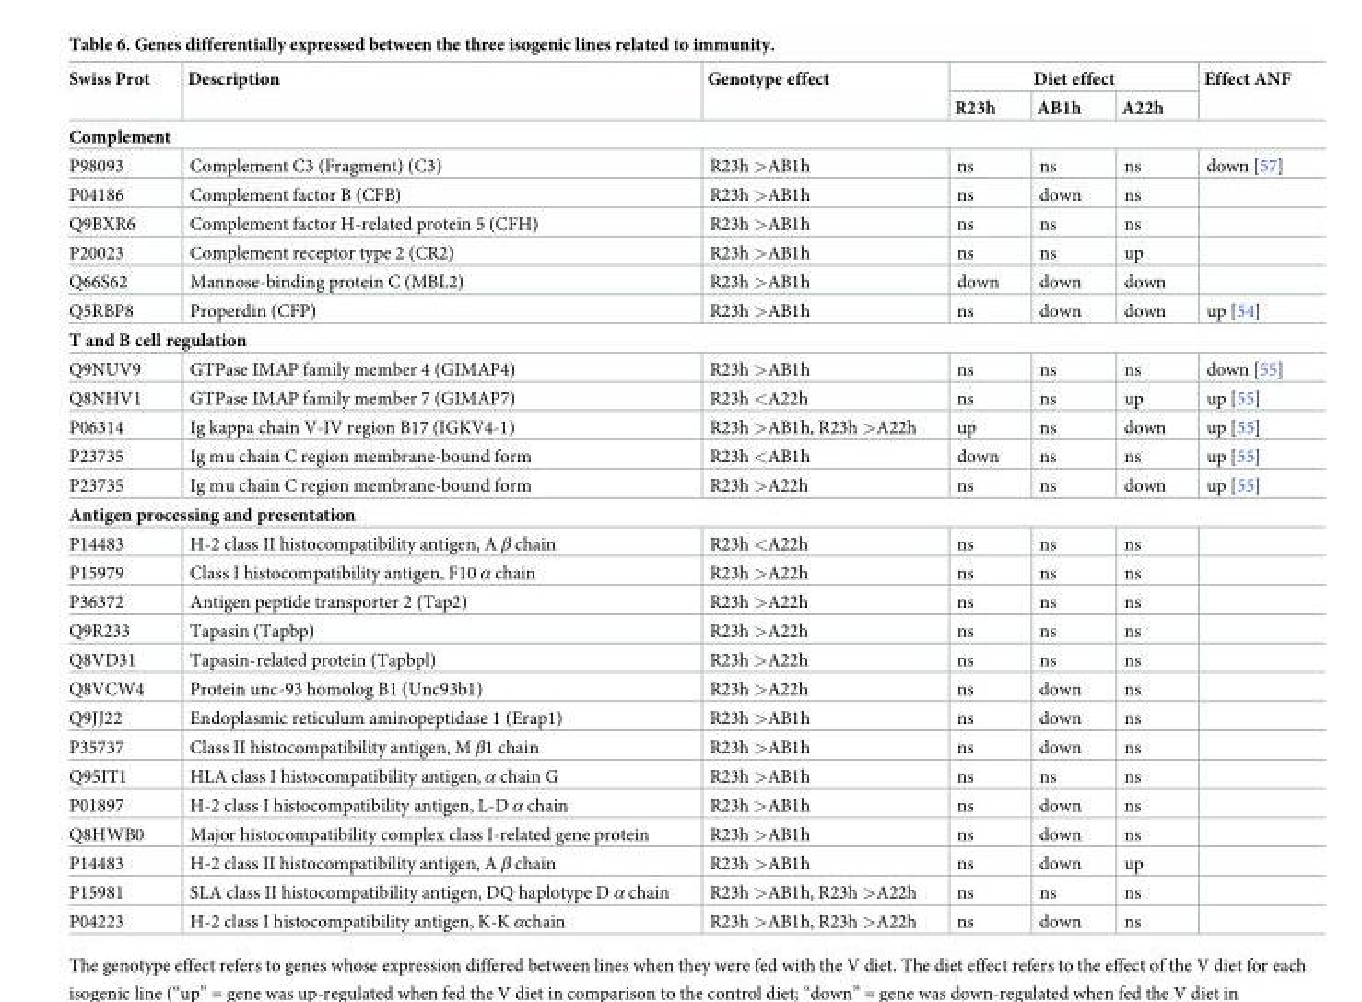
<table><thead><tr><td rowspan="2">Swiss Prot</td><td rowspan="2">Description</td><td rowspan="2">Genotype effect</td><td colspan="3">Diet effect</td><td rowspan="2">Effect ANF</td></tr><tr><td>R23h</td><td>AB1h</td><td>A22h</td></tr></thead><tbody><tr><td colspan="7">Complement</td></tr><tr><td>P98093</td><td>Complement C3 (Fragment) (C3)</td><td>R23h &gt;AB1h</td><td>ns</td><td>ns</td><td>ns</td><td>down [57]</td></tr><tr><td>P04186</td><td>Complement factor B (CFB)</td><td>R23h &gt;AB1h</td><td>ns</td><td>down</td><td>ns</td><td></td></tr><tr><td>Q9BXR6</td><td>Complement factor H-related protein 5 (CFH)</td><td>R23h &gt;AB1h</td><td>ns</td><td>ns</td><td>ns</td><td></td></tr><tr><td>P20023</td><td>Complement receptor type 2 (CR2)</td><td>R23h &gt;AB1h</td><td>ns</td><td>ns</td><td>up</td><td></td></tr><tr><td>Q66S62</td><td>Mannose-binding protein C (MBL2)</td><td>R23h &gt;AB1h</td><td>down</td><td>down</td><td>down</td><td></td></tr><tr><td>Q5RBP8</td><td>Properdin (CFP)</td><td>R23h &gt;AB1h</td><td>ns</td><td>down</td><td>down</td><td>up [54]</td></tr><tr><td colspan="7">T and B cell regulation</td></tr><tr><td>Q9NUV9</td><td>GTPase IMAP family member 4 (GIMAP4)</td><td>R23h &gt;AB1h</td><td>ns</td><td>ns</td><td>ns</td><td>down [55]</td></tr><tr><td>Q8NHV1</td><td>GTPase IMAP family member 7 (GIMAP7)</td><td>R23h &lt;A22h</td><td>ns</td><td>ns</td><td>up</td><td>up [55]</td></tr><tr><td>P06314</td><td>Ig kappa chain V-IV region B17 (IGKV4-1)</td><td>R23h &gt;AB1h, R23h &gt;A22h</td><td>up</td><td>ns</td><td>down</td><td>up [55]</td></tr><tr><td>P23735</td><td>Ig mu chain C region membrane-bound form</td><td>R23h &lt;AB1h</td><td>down</td><td>ns</td><td>ns</td><td>up [55]</td></tr><tr><td>P23735</td><td>Ig mu chain C region membrane-bound form</td><td>R23h &gt;A22h</td><td>ns</td><td>ns</td><td>down</td><td>up [55]</td></tr><tr><td colspan="7">Antigen processing and presentation</td></tr><tr><td>P14483</td><td>H-2 class II histocompatibility antigen, A β chain</td><td>R23h &lt;A22h</td><td>ns</td><td>ns</td><td>ns</td><td></td></tr><tr><td>P15979</td><td>Class I histocompatibility antigen, F10 α chain</td><td>R23h &gt;A22h</td><td>ns</td><td>ns</td><td>ns</td><td></td></tr><tr><td>P36372</td><td>Antigen peptide transporter 2 (Tap2)</td><td>R23h &gt;A22h</td><td>ns</td><td>ns</td><td>ns</td><td></td></tr><tr><td>Q9R233</td><td>Tapasin (Tapbp)</td><td>R23h &gt;A22h</td><td>ns</td><td>ns</td><td>ns</td><td></td></tr><tr><td>Q8VD31</td><td>Tapasin-related protein (Tapbpl)</td><td>R23h &gt;A22h</td><td>ns</td><td>ns</td><td>ns</td><td></td></tr><tr><td>Q8VCW4</td><td>Protein unc-93 homolog B1 (Unc93b1)</td><td>R23h &gt;A22h</td><td>ns</td><td>down</td><td>ns</td><td></td></tr><tr><td>Q9JJ22</td><td>Endoplasmic reticulum aminopeptidase 1 (Erap1)</td><td>R23h &gt;AB1h</td><td>ns</td><td>down</td><td>ns</td><td></td></tr><tr><td>P35737</td><td>Class II histocompatibility antigen, M β1 chain</td><td>R23h &gt;AB1h</td><td>ns</td><td>down</td><td>ns</td><td></td></tr><tr><td>Q95IT1</td><td>HLA class I histocompatibility antigen, α chain G</td><td>R23h &gt;AB1h</td><td>ns</td><td>ns</td><td>ns</td><td></td></tr><tr><td>P01897</td><td>H-2 class I histocompatibility antigen, L-D α chain</td><td>R23h &gt;AB1h</td><td>ns</td><td>down</td><td>ns</td><td></td></tr><tr><td>Q8HWB0</td><td>Major histocompatibility complex class I-related gene protein</td><td>R23h &gt;AB1h</td><td>ns</td><td>down</td><td>ns</td><td></td></tr><tr><td>P14483</td><td>H-2 class II histocompatibility antigen, A β chain</td><td>R23h &gt;AB1h</td><td>ns</td><td>down</td><td>up</td><td></td></tr><tr><td>P15981</td><td>SLA class II histocompatibility antigen, DQ haplotype D α chain</td><td>R23h &gt;AB1h, R23h &gt;A22h</td><td>ns</td><td>ns</td><td>ns</td><td></td></tr><tr><td>P04223</td><td>H-2 class I histocompatibility antigen, K-K αchain</td><td>R23h &gt;AB1h, R23h &gt;A22h</td><td>ns</td><td>down</td><td>ns</td><td></td></tr></tbody></table>